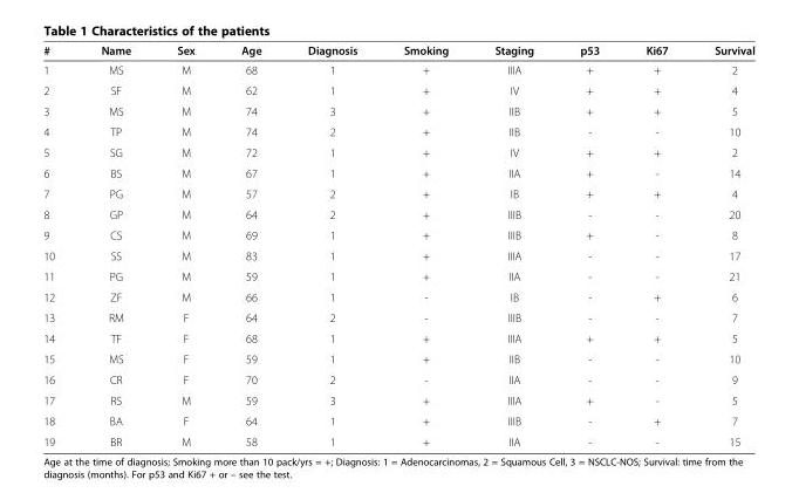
<table><thead><tr><td>#</td><td>Name</td><td>Sex</td><td>Age</td><td>Diagnosis</td><td>Smoking</td><td>Staging</td><td>p53</td><td>Ki67</td><td>Survival</td></tr></thead><tbody><tr><td>1</td><td>MS</td><td>M</td><td>68</td><td>1</td><td>+</td><td>IIIA</td><td>+</td><td>+</td><td>2</td></tr><tr><td>2</td><td>SF</td><td>M</td><td>62</td><td>1</td><td>+</td><td>IV</td><td>+</td><td>+</td><td>4</td></tr><tr><td>3</td><td>MS</td><td>M</td><td>74</td><td>3</td><td>+</td><td>IIB</td><td>+</td><td>+</td><td>5</td></tr><tr><td>4</td><td>TP</td><td>M</td><td>74</td><td>2</td><td>+</td><td>IIB</td><td>-</td><td>-</td><td>10</td></tr><tr><td>5</td><td>SG</td><td>M</td><td>72</td><td>1</td><td>+</td><td>IV</td><td>+</td><td>+</td><td>2</td></tr><tr><td>6</td><td>BS</td><td>M</td><td>67</td><td>1</td><td>+</td><td>IIA</td><td>+</td><td>-</td><td>14</td></tr><tr><td>7</td><td>PG</td><td>M</td><td>57</td><td>2</td><td>+</td><td>IB</td><td>+</td><td>+</td><td>4</td></tr><tr><td>8</td><td>GP</td><td>M</td><td>64</td><td>2</td><td>+</td><td>IIIB</td><td>-</td><td>-</td><td>20</td></tr><tr><td>9</td><td>CS</td><td>M</td><td>69</td><td>1</td><td>+</td><td>IIIB</td><td>+</td><td>-</td><td>8</td></tr><tr><td>10</td><td>SS</td><td>M</td><td>83</td><td>1</td><td>+</td><td>IIIA</td><td>-</td><td>-</td><td>17</td></tr><tr><td>11</td><td>PG</td><td>M</td><td>59</td><td>1</td><td>+</td><td>IIA</td><td>-</td><td>-</td><td>21</td></tr><tr><td>12</td><td>ZF</td><td>M</td><td>66</td><td>1</td><td>-</td><td>IB</td><td>-</td><td>+</td><td>6</td></tr><tr><td>13</td><td>RM</td><td>F</td><td>64</td><td>2</td><td>-</td><td>IIIB</td><td>-</td><td>-</td><td>7</td></tr><tr><td>14</td><td>TF</td><td>F</td><td>68</td><td>1</td><td>+</td><td>IIIA</td><td>+</td><td>+</td><td>5</td></tr><tr><td>15</td><td>MS</td><td>F</td><td>59</td><td>1</td><td>+</td><td>IIB</td><td>-</td><td>-</td><td>10</td></tr><tr><td>16</td><td>CR</td><td>F</td><td>70</td><td>2</td><td>-</td><td>IIA</td><td>-</td><td>-</td><td>9</td></tr><tr><td>17</td><td>RS</td><td>M</td><td>59</td><td>3</td><td>+</td><td>IIIA</td><td>+</td><td>-</td><td>5</td></tr><tr><td>18</td><td>BA</td><td>F</td><td>64</td><td>1</td><td>+</td><td>IIIB</td><td>-</td><td>+</td><td>7</td></tr><tr><td>19</td><td>BR</td><td>M</td><td>58</td><td>1</td><td>+</td><td>IIA</td><td>-</td><td>-</td><td>15</td></tr></tbody></table>